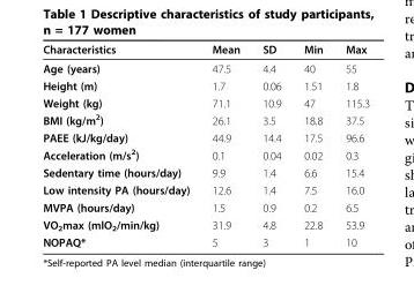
<table><thead><tr><td>Characteristics</td><td>Mean</td><td>SD</td><td>Min</td><td>Max</td></tr></thead><tbody><tr><td>Age (years)</td><td>47.5</td><td>4.4</td><td>40</td><td>55</td></tr><tr><td>Height (m)</td><td>1.7</td><td>0.06</td><td>1.51</td><td>1.8</td></tr><tr><td>Weight (kg)</td><td>71.1</td><td>10.9</td><td>47</td><td>115.3</td></tr><tr><td>BMI (kg/m<sup>2</sup>)</td><td>26.1</td><td>3.5</td><td>18.8</td><td>37.5</td></tr><tr><td>PAEE (kJ/kg/day)</td><td>44.9</td><td>14.4</td><td>17.5</td><td>96.6</td></tr><tr><td>Acceleration (m/s<sup>2</sup>)</td><td>0.1</td><td>0.04</td><td>0.02</td><td>0.3</td></tr><tr><td>Sedentary time (hours/day)</td><td>9.9</td><td>1.4</td><td>6.6</td><td>15.4</td></tr><tr><td>Low intensity PA (hours/day)</td><td>12.6</td><td>1.4</td><td>7.5</td><td>16.0</td></tr><tr><td>MVPA (hours/day)</td><td>1.5</td><td>0.9</td><td>0.2</td><td>6.5</td></tr><tr><td>VO<sub>2</sub>max (mlO<sub>2</sub>/min/kg)</td><td>31.9</td><td>4.8</td><td>22.8</td><td>53.9</td></tr><tr><td>NOPAQ*</td><td>5</td><td>3</td><td>1</td><td>10</td></tr></tbody></table>